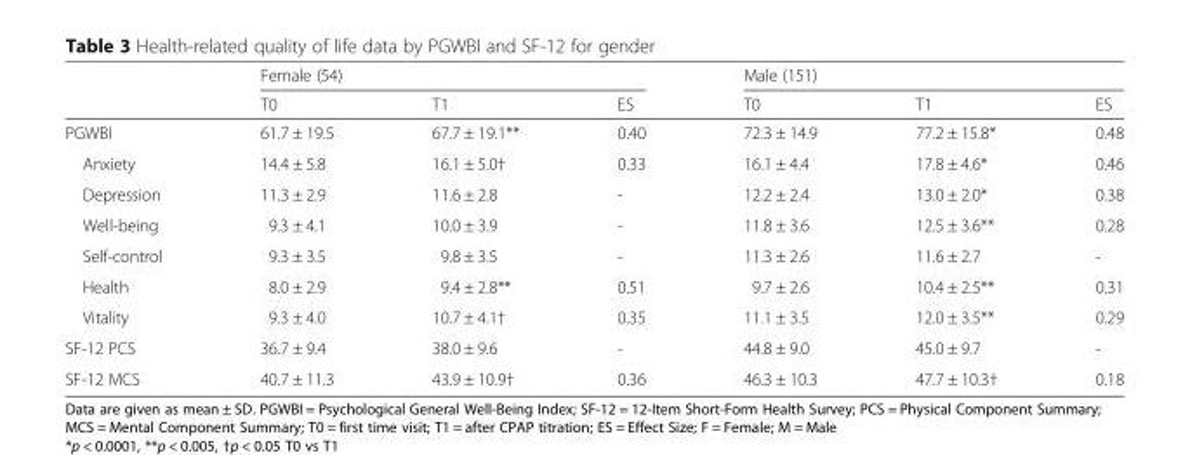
<table><thead><tr><td rowspan="2"></td><td colspan="3">Female (54)</td><td colspan="3">Male (151)</td></tr><tr><td>T0</td><td>T1</td><td>ES</td><td>T0</td><td>T1</td><td>ES</td></tr></thead><tbody><tr><td>PGWBI</td><td>61.7 ± 19.5</td><td>67.7 ± 19.1**</td><td>0.40</td><td>72.3 ± 14.9</td><td>77.2 ± 15.8*</td><td>0.48</td></tr><tr><td>Anxiety</td><td>14.4 ± 5.8</td><td>16.1 ± 5.0†</td><td>0.33</td><td>16.1 ± 4.4</td><td>17.8 ± 4.6*</td><td>0.46</td></tr><tr><td>Depression</td><td>11.3 ± 2.9</td><td>11.6 ± 2.8</td><td>-</td><td>12.2 ± 2.4</td><td>13.0 ± 2.0*</td><td>0.38</td></tr><tr><td>Well-being</td><td>9.3 ± 4.1</td><td>10.0 ± 3.9</td><td>-</td><td>11.8 ± 3.6</td><td>12.5 ± 3.6**</td><td>0.28</td></tr><tr><td>Self-control</td><td>9.3 ± 3.5</td><td>9.8 ± 3.5</td><td>-</td><td>11.3 ± 2.6</td><td>11.6 ± 2.7</td><td>-</td></tr><tr><td>Health</td><td>8.0 ± 2.9</td><td>9.4 ± 2.8**</td><td>0.51</td><td>9.7 ± 2.6</td><td>10.4 ± 2.5**</td><td>0.31</td></tr><tr><td>Vitality</td><td>9.3 ± 4.0</td><td>10.7 ± 4.1†</td><td>0.35</td><td>11.1 ± 3.5</td><td>12.0 ± 3.5**</td><td>0.29</td></tr><tr><td>SF-12 PCS</td><td>36.7 ± 9.4</td><td>38.0 ± 9.6</td><td>-</td><td>44.8 ± 9.0</td><td>45.0 ± 9.7</td><td>-</td></tr><tr><td>SF-12 MCS</td><td>40.7 ± 11.3</td><td>43.9 ± 10.9†</td><td>0.36</td><td>46.3 ± 10.3</td><td>47.7 ± 10.3†</td><td>0.18</td></tr></tbody></table>